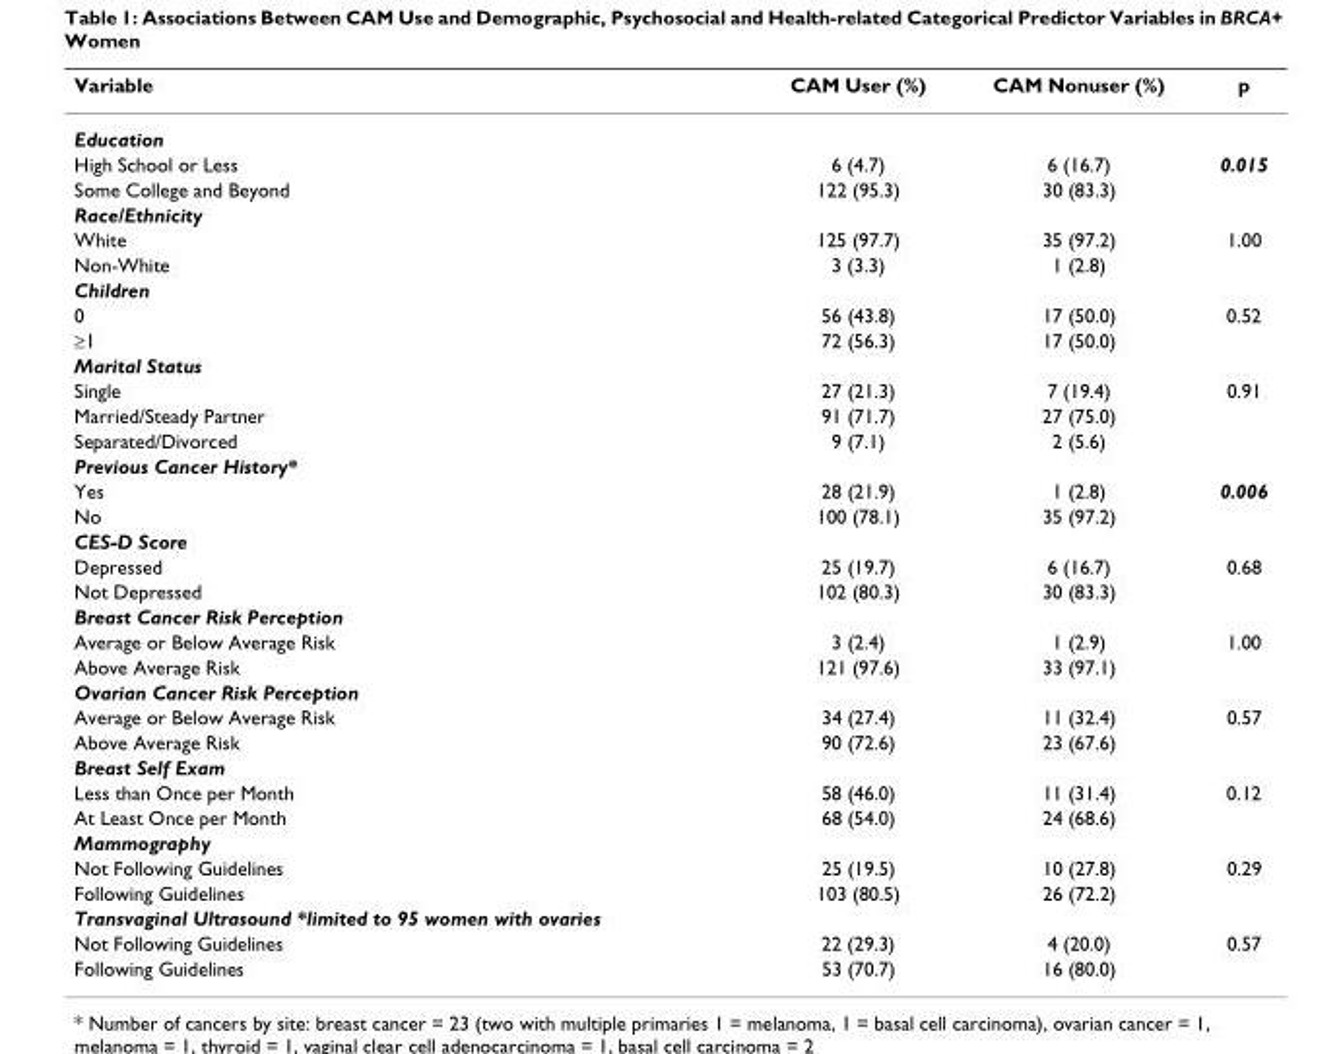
<table><thead><tr><td>Variable</td><td>CAM User (%)</td><td>CAM Nonuser (%)</td><td>p</td></tr></thead><tbody><tr><td colspan="4">Education</td></tr><tr><td>High School or Less</td><td>6 (4.7)</td><td>6 (16.7)</td><td>0.015</td></tr><tr><td>Some College and Beyond</td><td>122 (95.3)</td><td>30 (83.3)</td><td></td></tr><tr><td colspan="4">Race/Ethnicity</td></tr><tr><td>White</td><td>125 (97.7)</td><td>35 (97.2)</td><td>1.00</td></tr><tr><td>Non-White</td><td>3 (3.3)</td><td>1 (2.8)</td><td></td></tr><tr><td colspan="4">Children</td></tr><tr><td>0</td><td>56 (43.8)</td><td>17 (50.0)</td><td>0.52</td></tr><tr><td>≥1</td><td>72 (56.3)</td><td>17 (50.0)</td><td></td></tr><tr><td colspan="4">Marital Status</td></tr><tr><td>Single</td><td>27 (21.3)</td><td>7 (19.4)</td><td>0.91</td></tr><tr><td>Married/Steady Partner</td><td>91 (71.7)</td><td>27 (75.0)</td><td></td></tr><tr><td>Separated/Divorced</td><td>9 (7.1)</td><td>2 (5.6)</td><td></td></tr><tr><td colspan="4">Previous Cancer History*</td></tr><tr><td>Yes</td><td>28 (21.9)</td><td>1 (2.8)</td><td>0.006</td></tr><tr><td>No</td><td>100 (78.1)</td><td>35 (97.2)</td><td></td></tr><tr><td colspan="4">CES-D Score</td></tr><tr><td>Depressed</td><td>25 (19.7)</td><td>6 (16.7)</td><td>0.68</td></tr><tr><td>Not Depressed</td><td>102 (80.3)</td><td>30 (83.3)</td><td></td></tr><tr><td colspan="4">Breast Cancer Risk Perception</td></tr><tr><td>Average or Below Average Risk</td><td>3 (2.4)</td><td>1 (2.9)</td><td>1.00</td></tr><tr><td>Above Average Risk</td><td>121 (97.6)</td><td>33 (97.1)</td><td></td></tr><tr><td colspan="4">Ovarian Cancer Risk Perception</td></tr><tr><td>Average or Below Average Risk</td><td>34 (27.4)</td><td>11 (32.4)</td><td>0.57</td></tr><tr><td>Above Average Risk</td><td>90 (72.6)</td><td>23 (67.6)</td><td></td></tr><tr><td colspan="4">Breast Self Exam</td></tr><tr><td>Less than Once per Month</td><td>58 (46.0)</td><td>11 (31.4)</td><td>0.12</td></tr><tr><td>At Least Once per Month</td><td>68 (54.0)</td><td>24 (68.6)</td><td></td></tr><tr><td colspan="4">Mammography</td></tr><tr><td>Not Following Guidelines</td><td>25 (19.5)</td><td>10 (27.8)</td><td>0.29</td></tr><tr><td>Following Guidelines</td><td>103 (80.5)</td><td>26 (72.2)</td><td></td></tr><tr><td colspan="4">Transvaginal Ultrasound *limited to 95 women with ovaries</td></tr><tr><td>Not Following Guidelines</td><td>22 (29.3)</td><td>4 (20.0)</td><td>0.57</td></tr><tr><td>Following Guidelines</td><td>53 (70.7)</td><td>16 (80.0)</td><td></td></tr></tbody></table>